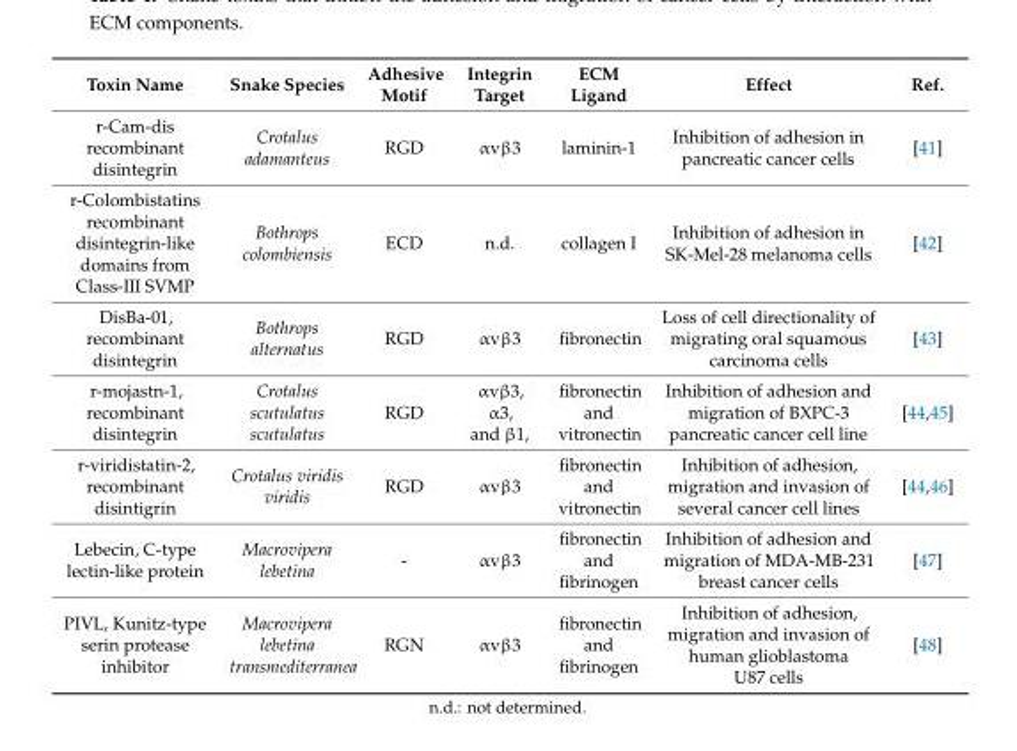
<table><thead><tr><td>Toxin Name</td><td>Snake Species</td><td>Adhesive Motif</td><td>Integrin Target</td><td>ECM Ligand</td><td>Effect</td><td>Ref.</td></tr></thead><tbody><tr><td>r-Cam-dis recombinant disintegrin</td><td>Crotalus adamanteus</td><td>RGD</td><td>αvβ3</td><td>laminin-1</td><td>Inhibition of adhesion in pancreatic cancer cells</td><td>[41]</td></tr><tr><td>r-Colombistatins recombinant disintegrin-like domains from Class-III SVMP</td><td>Bothrops colombiensis</td><td>ECD</td><td>n.d.</td><td>collagen I</td><td>Inhibition of adhesion in SK-Mel-28 melanoma cells</td><td>[42]</td></tr><tr><td>DisBa-01, recombinant disintegrin</td><td>Bothrops alternatus</td><td>RGD</td><td>αvβ3</td><td>fibronectin</td><td>Loss of cell directionality of migrating oral squamous carcinoma cells</td><td>[43]</td></tr><tr><td>r-mojastn-1, recombinant disintegrin</td><td>Crotalus scutulatus scutulatus</td><td>RGD</td><td>αvβ3, α3, and β1,</td><td>fibronectin and vitronectin</td><td>Inhibition of adhesion and migration of BXPC-3 pancreatic cancer cell line</td><td>[44,45]</td></tr><tr><td>r-viridistatin-2, recombinant disintigrin</td><td>Crotalus viridis viridis</td><td>RGD</td><td>αvβ3</td><td>fibronectin and vitronectin</td><td>Inhibition of adhesion, migration and invasion of several cancer cell lines</td><td>[44,46]</td></tr><tr><td>Lebecin, C-type lectin-like protein</td><td>Macrovipera lebetina</td><td>-</td><td>αvβ3</td><td>fibronectin and fibrinogen</td><td>Inhibition of adhesion and migration of MDA-MB-231 breast cancer cells</td><td>[47]</td></tr><tr><td>PIVL, Kunitz-type serin protease inhibitor</td><td>Macrovipera lebetina transmediterranea</td><td>RGN</td><td>αvβ3</td><td>fibronectin and fibrinogen</td><td>Inhibition of adhesion, migration and invasion of human glioblastoma U87 cells</td><td>[48]</td></tr></tbody></table>